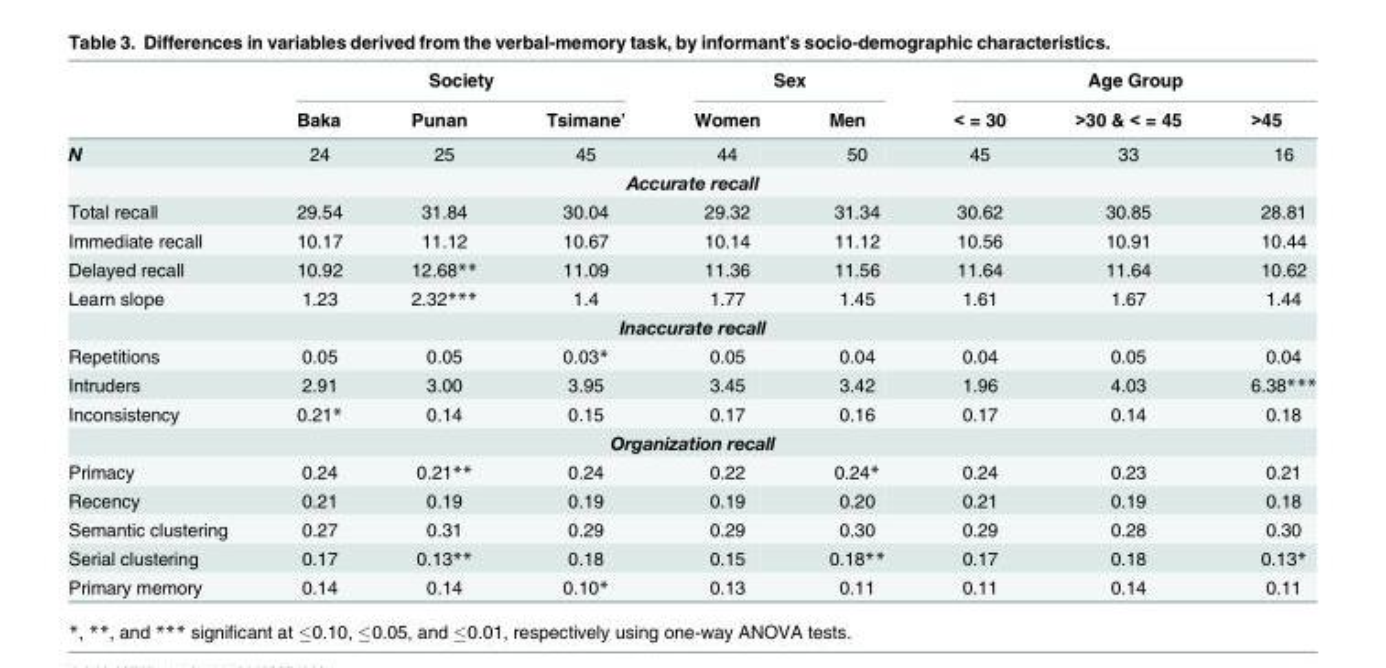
<table><thead><tr><td rowspan="2"></td><td colspan="3">Society</td><td colspan="2">Sex</td><td colspan="3">Age Group</td></tr><tr><td>Baka</td><td>Punan</td><td>Tsimane’</td><td>Women</td><td>Men</td><td>&lt; = 30</td><td>&gt;30 &amp; &lt; = 45</td><td>&gt;45</td></tr></thead><tbody><tr><td>N</td><td>24</td><td>25</td><td>45</td><td>44</td><td>50</td><td>45</td><td>33</td><td>16</td></tr><tr><td colspan="9">Accurate recall</td></tr><tr><td>Total recall</td><td>29.54</td><td>31.84</td><td>30.04</td><td>29.32</td><td>31.34</td><td>30.62</td><td>30.85</td><td>28.81</td></tr><tr><td>Immediate recall</td><td>10.17</td><td>11.12</td><td>10.67</td><td>10.14</td><td>11.12</td><td>10.56</td><td>10.91</td><td>10.44</td></tr><tr><td>Delayed recall</td><td>10.92</td><td>12.68**</td><td>11.09</td><td>11.36</td><td>11.56</td><td>11.64</td><td>11.64</td><td>10.62</td></tr><tr><td>Learn slope</td><td>1.23</td><td>2.32***</td><td>1.4</td><td>1.77</td><td>1.45</td><td>1.61</td><td>1.67</td><td>1.44</td></tr><tr><td colspan="9">Inaccurate recall</td></tr><tr><td>Repetitions</td><td>0.05</td><td>0.05</td><td>0.03*</td><td>0.05</td><td>0.04</td><td>0.04</td><td>0.05</td><td>0.04</td></tr><tr><td>Intruders</td><td>2.91</td><td>3.00</td><td>3.95</td><td>3.45</td><td>3.42</td><td>1.96</td><td>4.03</td><td>6.38***</td></tr><tr><td>Inconsistency</td><td>0.21*</td><td>0.14</td><td>0.15</td><td>0.17</td><td>0.16</td><td>0.17</td><td>0.14</td><td>0.18</td></tr><tr><td colspan="9">Organization recall</td></tr><tr><td>Primacy</td><td>0.24</td><td>0.21**</td><td>0.24</td><td>0.22</td><td>0.24*</td><td>0.24</td><td>0.23</td><td>0.21</td></tr><tr><td>Recency</td><td>0.21</td><td>0.19</td><td>0.19</td><td>0.19</td><td>0.20</td><td>0.21</td><td>0.19</td><td>0.18</td></tr><tr><td>Semantic clustering</td><td>0.27</td><td>0.31</td><td>0.29</td><td>0.29</td><td>0.30</td><td>0.29</td><td>0.28</td><td>0.30</td></tr><tr><td>Serial clustering</td><td>0.17</td><td>0.13**</td><td>0.18</td><td>0.15</td><td>0.18**</td><td>0.17</td><td>0.18</td><td>0.13*</td></tr><tr><td>Primary memory</td><td>0.14</td><td>0.14</td><td>0.10*</td><td>0.13</td><td>0.11</td><td>0.11</td><td>0.14</td><td>0.11</td></tr></tbody></table>